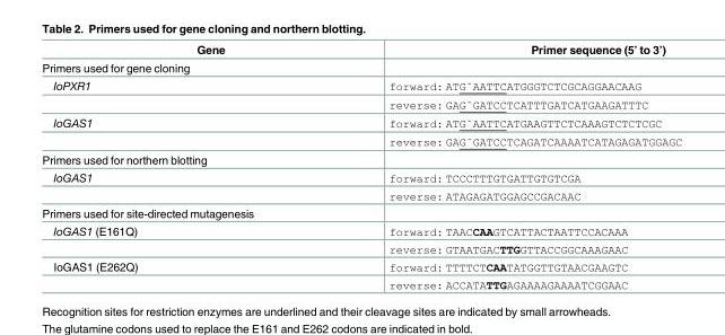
<table><thead><tr><td>Gene</td><td>Primer sequence (5’ to 3’)</td></tr></thead><tbody><tr><td colspan="2">Primers used for gene cloning</td></tr><tr><td rowspan="2">IoPXR1</td><td>forward: ATGˇAATTCATGGGTCTCGCAGGAACAAG</td></tr><tr><td>reverse: GAGˇGATCCTCATTTGATCATGAAGATTTC</td></tr><tr><td rowspan="2">IoGAS1</td><td>forward: ATGˇAATTCATGAAGTTCTCAAAGTCTCTCGC</td></tr><tr><td>reverse: GAGˇGATCCTCAGATCAAAATCATAGAGATGGAGC</td></tr><tr><td colspan="2">Primers used for northern blotting</td></tr><tr><td rowspan="2">IoGAS1</td><td>forward: TCCCTTTGTGATTGTGTCGA</td></tr><tr><td>reverse: ATAGAGATGGAGCCGACAAC</td></tr><tr><td colspan="2">Primers used for site-directed mutagenesis</td></tr><tr><td rowspan="2">IoGAS1 (E161Q)</td><td>forward: TAACCAAGTCATTACTAATTCCACAAA</td></tr><tr><td>reverse: GTAATGACTTGGTTACCGGCAAAGAAC</td></tr><tr><td rowspan="2">IoGAS1 (E262Q)</td><td>forward: TTTTCTCAATATGGTTGTAACGAAGTC</td></tr><tr><td>reverse: ACCATATTGAGAAAAGAAAATCGGAAC</td></tr></tbody></table>